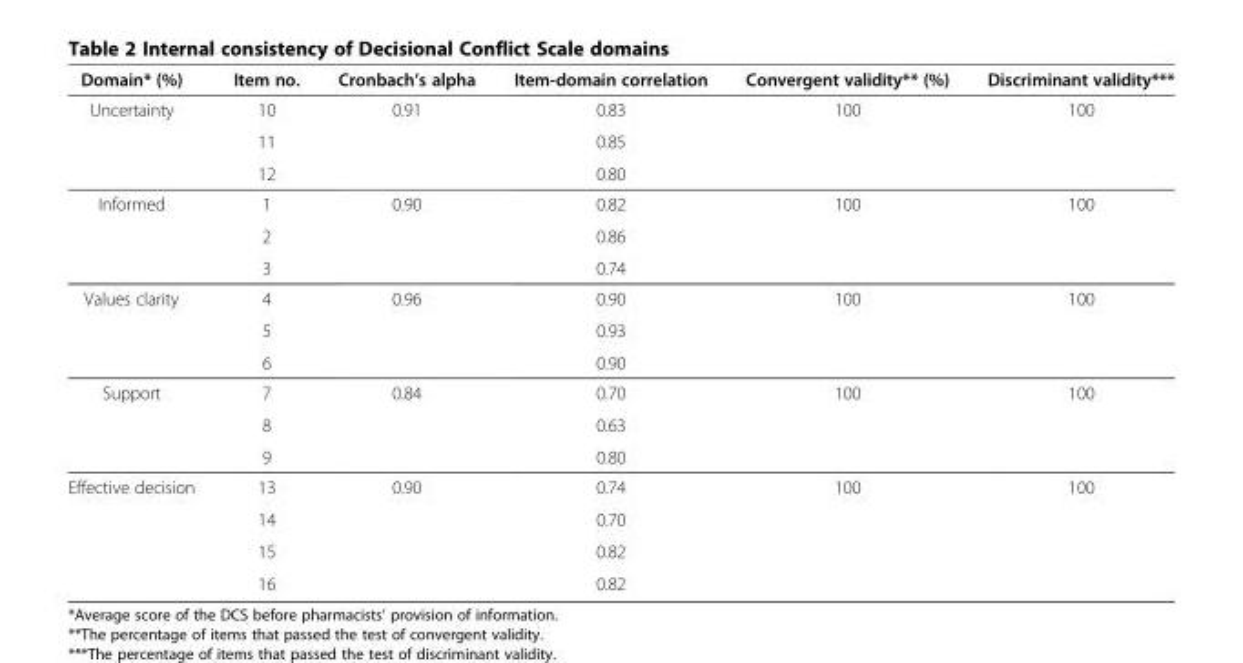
<table><thead><tr><td>Domain* (%)</td><td>Item no.</td><td>Cronbach’s alpha</td><td>Item-domain correlation</td><td>Convergent validity** (%)</td><td>Discriminant validity***</td></tr></thead><tbody><tr><td rowspan="3">Uncertainty</td><td>10</td><td>0.91</td><td>0.83</td><td>100</td><td>100</td></tr><tr><td>11</td><td></td><td>0.85</td><td></td><td></td></tr><tr><td>12</td><td></td><td>0.80</td><td></td><td></td></tr><tr><td rowspan="3">Informed</td><td>1</td><td>0.90</td><td>0.82</td><td>100</td><td>100</td></tr><tr><td>2</td><td></td><td>0.86</td><td></td><td></td></tr><tr><td>3</td><td></td><td>0.74</td><td></td><td></td></tr><tr><td rowspan="3">Values clarity</td><td>4</td><td>0.96</td><td>0.90</td><td>100</td><td>100</td></tr><tr><td>5</td><td></td><td>0.93</td><td></td><td></td></tr><tr><td>6</td><td></td><td>0.90</td><td></td><td></td></tr><tr><td rowspan="3">Support</td><td>7</td><td>0.84</td><td>0.70</td><td>100</td><td>100</td></tr><tr><td>8</td><td></td><td>0.63</td><td></td><td></td></tr><tr><td>9</td><td></td><td>0.80</td><td></td><td></td></tr><tr><td rowspan="4">Effective decision</td><td>13</td><td>0.90</td><td>0.74</td><td>100</td><td>100</td></tr><tr><td>14</td><td></td><td>0.70</td><td></td><td></td></tr><tr><td>15</td><td></td><td>0.82</td><td></td><td></td></tr><tr><td>16</td><td></td><td>0.82</td><td></td><td></td></tr></tbody></table>